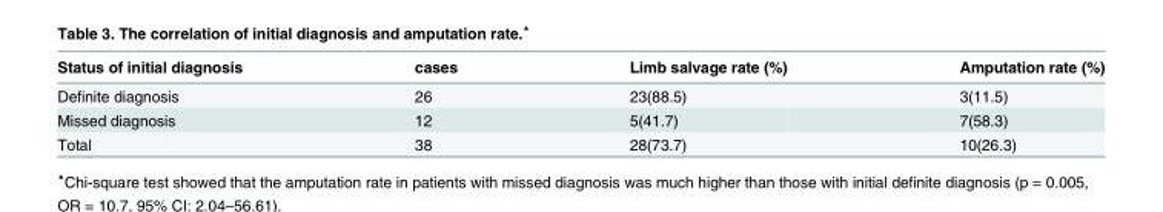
<table><thead><tr><td>Status of initial diagnosis</td><td>cases</td><td>Limb salvage rate (%)</td><td>Amputation rate (%)</td></tr></thead><tbody><tr><td>Definite diagnosis</td><td>26</td><td>23(88.5)</td><td>3(11.5)</td></tr><tr><td>Missed diagnosis</td><td>12</td><td>5(41.7)</td><td>7(58.3)</td></tr><tr><td>Total</td><td>38</td><td>28(73.7)</td><td>10(26.3)</td></tr></tbody></table>